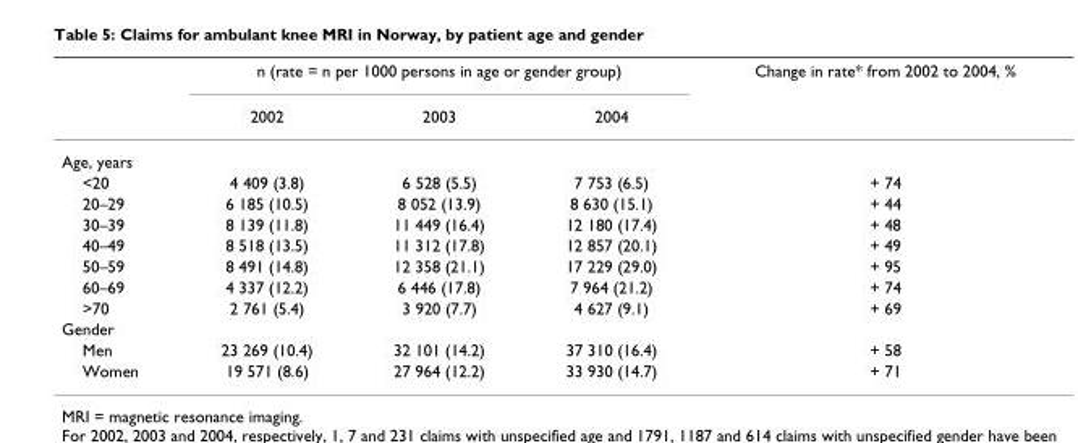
<table><thead><tr><td rowspan="2"></td><td colspan="3">n (rate = n per 1000 persons in age or gender group)</td><td rowspan="2">Change in rate* from 2002 to 2004, %</td></tr><tr><td>2002</td><td>2003</td><td>2004</td></tr></thead><tbody><tr><td colspan="5">Age, years</td></tr><tr><td>&lt;20</td><td>4 409 (3.8)</td><td>6 528 (5.5)</td><td>7 753 (6.5)</td><td>+ 74</td></tr><tr><td>20–29</td><td>6 185 (10.5)</td><td>8 052 (13.9)</td><td>8 630 (15.1)</td><td>+ 44</td></tr><tr><td>30–39</td><td>8 139 (11.8)</td><td>11 449 (16.4)</td><td>12 180 (17.4)</td><td>+ 48</td></tr><tr><td>40–49</td><td>8 518 (13.5)</td><td>11 312 (17.8)</td><td>12 857 (20.1)</td><td>+ 49</td></tr><tr><td>50–59</td><td>8 491 (14.8)</td><td>12 358 (21.1)</td><td>17 229 (29.0)</td><td>+ 95</td></tr><tr><td>60–69</td><td>4 337 (12.2)</td><td>6 446 (17.8)</td><td>7 964 (21.2)</td><td>+ 74</td></tr><tr><td>&gt;70</td><td>2 761 (5.4)</td><td>3 920 (7.7)</td><td>4 627 (9.1)</td><td>+ 69</td></tr><tr><td colspan="5">Gender</td></tr><tr><td>Men</td><td>23 269 (10.4)</td><td>32 101 (14.2)</td><td>37 310 (16.4)</td><td>+ 58</td></tr><tr><td>Women</td><td>19 571 (8.6)</td><td>27 964 (12.2)</td><td>33 930 (14.7)</td><td>+ 71</td></tr></tbody></table>